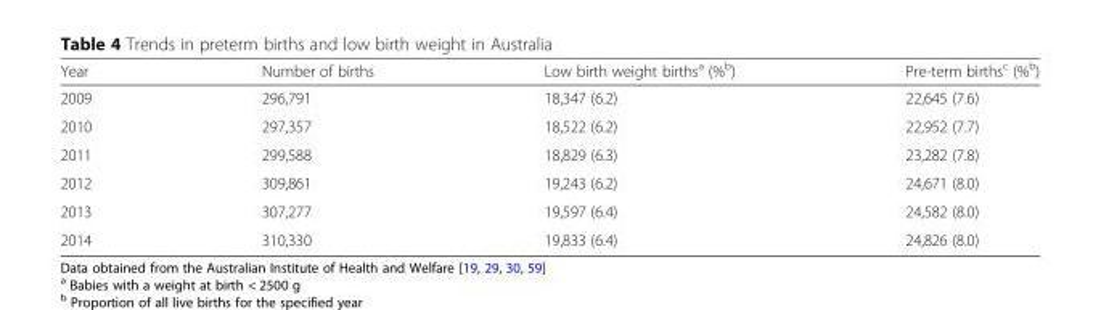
<table><thead><tr><td>Year</td><td>Number of births</td><td>Low birth weight births<sup>a</sup> (%<sup>b</sup>)</td><td>Pre-term births<sup>c</sup> (%<sup>b</sup>)</td></tr></thead><tbody><tr><td>2009</td><td>296,791</td><td>18,347 (6.2)</td><td>22,645 (7.6)</td></tr><tr><td>2010</td><td>297,357</td><td>18,522 (6.2)</td><td>22,952 (7.7)</td></tr><tr><td>2011</td><td>299,588</td><td>18,829 (6.3)</td><td>23,282 (7.8)</td></tr><tr><td>2012</td><td>309,861</td><td>19,243 (6.2)</td><td>24,671 (8.0)</td></tr><tr><td>2013</td><td>307,277</td><td>19,597 (6.4)</td><td>24,582 (8.0)</td></tr><tr><td>2014</td><td>310,330</td><td>19,833 (6.4)</td><td>24,826 (8.0)</td></tr></tbody></table>